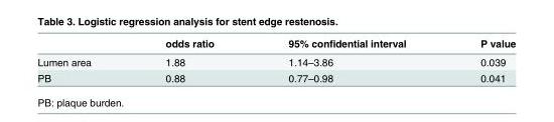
<table><thead><tr><td></td><td>odds ratio</td><td>95% confidential interval</td><td>P value</td></tr></thead><tbody><tr><td>Lumen area</td><td>1.88</td><td>1.14–3.86</td><td>0.039</td></tr><tr><td>PB</td><td>0.88</td><td>0.77–0.98</td><td>0.041</td></tr></tbody></table>